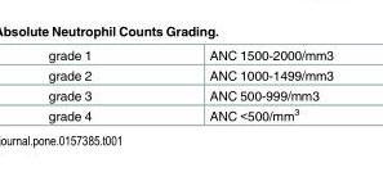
<table><tbody><tr><td>grade 1</td><td>ANC 1500-2000/mm3</td></tr><tr><td>grade 2</td><td>ANC 1000-1499/mm3</td></tr><tr><td>grade 3</td><td>ANC 500-999/mm3</td></tr><tr><td>grade 4</td><td>ANC &lt;500/mm<sup>3</sup></td></tr></tbody></table>